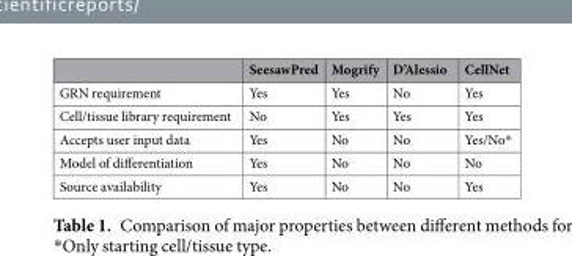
<table><thead><tr><td></td><td>SeesawPred</td><td>Mogrify</td><td>D’Alessio</td><td>CellNet</td></tr></thead><tbody><tr><td>GRN requirement</td><td>Yes</td><td>Yes</td><td>No</td><td>Yes</td></tr><tr><td>Cell/tissue library requirement</td><td>No</td><td>Yes</td><td>Yes</td><td>Yes</td></tr><tr><td>Accepts user input data</td><td>Yes</td><td>No</td><td>No</td><td>Yes/No*</td></tr><tr><td>Model of differentiation</td><td>Yes</td><td>No</td><td>No</td><td>No</td></tr><tr><td>Source availability</td><td>Yes</td><td>No</td><td>No</td><td>Yes</td></tr></tbody></table>